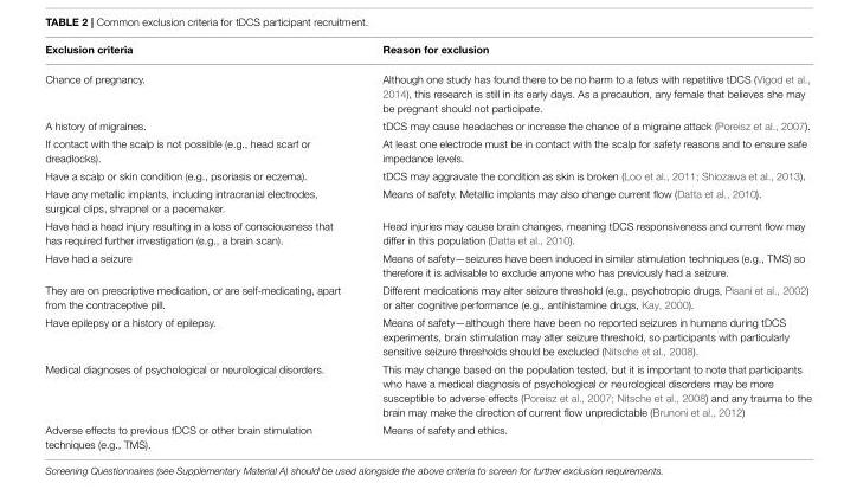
<table><thead><tr><td>Exclusion criteria</td><td>Reason for exclusion</td></tr></thead><tbody><tr><td>Chance of pregnancy.</td><td>Although one study has found there to be no harm to a fetus with repetitive tDCS (Vigod et al., 2014), this research is still in its early days. As a precaution, any female that believes she may be pregnant should not participate.</td></tr><tr><td>A history of migraines.</td><td>tDCS may cause headaches or increase the chance of a migraine attack (Poreisz et al., 2007).</td></tr><tr><td>If contact with the scalp is not possible (e.g., head scarf or dreadlocks).</td><td>At least one electrode must be in contact with the scalp for safety reasons and to ensure safe impedance levels.</td></tr><tr><td>Have a scalp or skin condition (e.g., psoriasis or eczema).</td><td>tDCS may aggravate the condition as skin is broken (Loo et al., 2011; Shiozawa et al., 2013).</td></tr><tr><td>Have any metallic implants, including intracranial electrodes, surgical clips, shrapnel or a pacemaker.</td><td>Means of safety. Metallic implants may also change current flow (Datta et al., 2010).</td></tr><tr><td>Have had a head injury resulting in a loss of consciousness that has required further investigation (e.g., a brain scan).</td><td>Head injuries may cause brain changes, meaning tDCS responsiveness and current flow may differ in this population (Datta et al., 2010).</td></tr><tr><td>Have had a seizure</td><td>Means of safety—seizures have been induced in similar stimulation techniques (e.g., TMS) so therefore it is advisable to exclude anyone who has previously had a seizure.</td></tr><tr><td>They are on prescriptive medication, or are self-medicating, apart from the contraceptive pill.</td><td>Different medications may alter seizure threshold (e.g., psychotropic drugs, Pisani et al., 2002) or alter cognitive performance (e.g., antihistamine drugs, Kay, 2000).</td></tr><tr><td>Have epilepsy or a history of epilepsy.</td><td>Means of safety—although there have been no reported seizures in humans during tDCS experiments, brain stimulation may alter seizure threshold, so participants with particularly sensitive seizure thresholds should be excluded (Nitsche et al., 2008).</td></tr><tr><td>Medical diagnoses of psychological or neurological disorders.</td><td>This may change based on the population tested, but it is important to note that participants who have a medical diagnosis of psychological or neurological disorders may be more susceptible to adverse effects (Poreisz et al., 2007; Nitsche et al., 2008) and any trauma to the brain may make the direction of current flow unpredictable (Brunoni et al., 2012)</td></tr><tr><td>Adverse effects to previous tDCS or other brain stimulation techniques (e.g., TMS).</td><td>Means of safety and ethics.</td></tr></tbody></table>